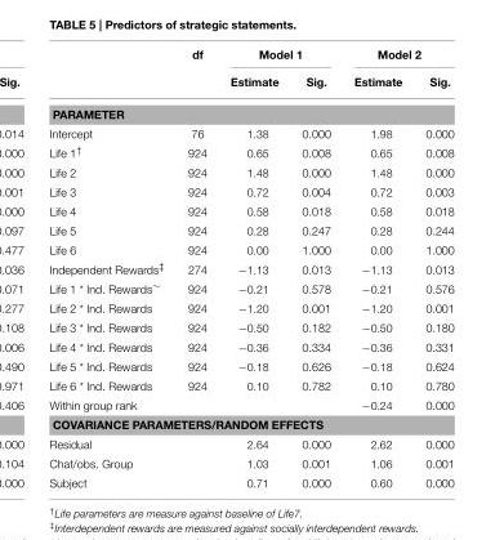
<table><thead><tr><td rowspan="2"></td><td rowspan="2">df</td><td colspan="2">Model 1</td><td colspan="2">Model 2</td></tr><tr><td>Estimate</td><td>Sig.</td><td>Estimate</td><td>Sig.</td></tr></thead><tbody><tr><td colspan="6">PARAMETER</td></tr><tr><td>Intercept</td><td>76</td><td>1.38</td><td>0.000</td><td>1.98</td><td>0.000</td></tr><tr><td>Life 1<sup>†</sup></td><td>924</td><td>0.65</td><td>0.008</td><td>0.65</td><td>0.008</td></tr><tr><td>Life 2</td><td>924</td><td>1.48</td><td>0.000</td><td>1.48</td><td>0.000</td></tr><tr><td>Life 3</td><td>924</td><td>0.72</td><td>0.004</td><td>0.72</td><td>0.003</td></tr><tr><td>Life 4</td><td>924</td><td>0.58</td><td>0.018</td><td>0.58</td><td>0.018</td></tr><tr><td>Life 5</td><td>924</td><td>0.28</td><td>0.247</td><td>0.28</td><td>0.244</td></tr><tr><td>Life 6</td><td>924</td><td>0.00</td><td>1.000</td><td>0.00</td><td>1.000</td></tr><tr><td>Independent Rewards<sup>‡</sup></td><td>274</td><td>−1.13</td><td>0.013</td><td>−1.13</td><td>0.013</td></tr><tr><td>Life 1 * Ind. Rewards∼</td><td>924</td><td>−0.21</td><td>0.578</td><td>−0.21</td><td>0.576</td></tr><tr><td>Life 2 * Ind. Rewards</td><td>924</td><td>−1.20</td><td>0.001</td><td>−1.20</td><td>0.001</td></tr><tr><td>Life 3 * Ind. Rewards</td><td>924</td><td>−0.50</td><td>0.182</td><td>−0.50</td><td>0.180</td></tr><tr><td>Life 4 * Ind. Rewards</td><td>924</td><td>−0.36</td><td>0.334</td><td>−0.36</td><td>0.331</td></tr><tr><td>Life 5 * Ind. Rewards</td><td>924</td><td>−0.18</td><td>0.626</td><td>−0.18</td><td>0.624</td></tr><tr><td>Life 6 * Ind. Rewards</td><td>924</td><td>0.10</td><td>0.782</td><td>0.10</td><td>0.780</td></tr><tr><td>Within group rank</td><td></td><td></td><td></td><td>−0.24</td><td>0.000</td></tr><tr><td colspan="6">COVARIANCE PARAMETERS/RANDOM EFFECTS</td></tr><tr><td>Residual</td><td></td><td>2.64</td><td>0.000</td><td>2.62</td><td>0.000</td></tr><tr><td>Chat/obs. Group</td><td></td><td>1.03</td><td>0.001</td><td>1.06</td><td>0.001</td></tr><tr><td>Subject</td><td></td><td>0.71</td><td>0.000</td><td>0.60</td><td>0.000</td></tr></tbody></table>